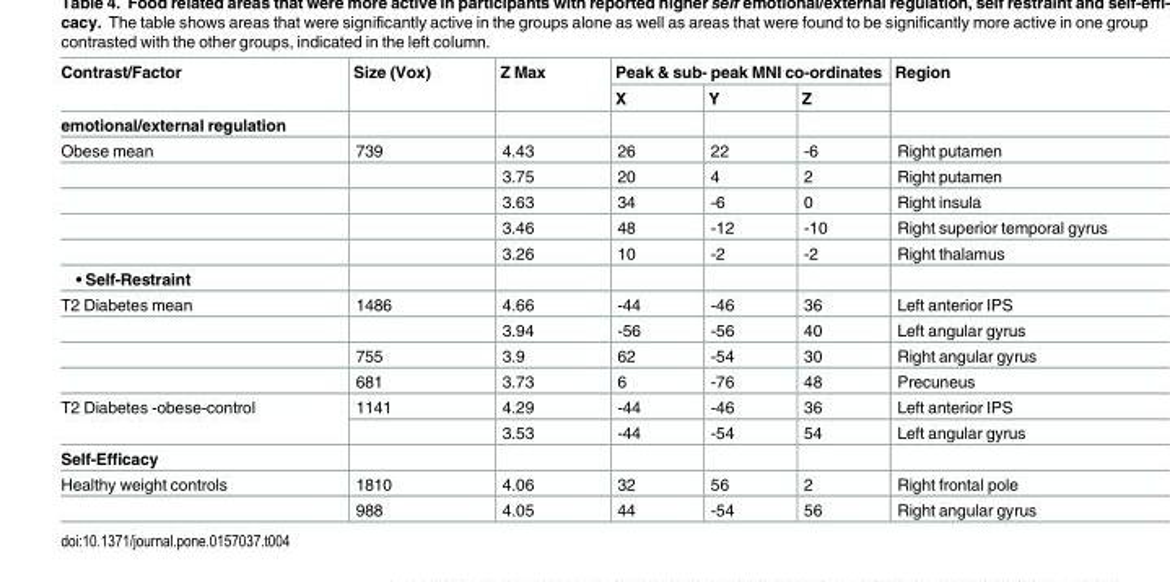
<table><thead><tr><td rowspan="2">Contrast/Factor</td><td rowspan="2">Size (Vox)</td><td rowspan="2">Z Max</td><td colspan="3">Peak &amp; sub- peak MNI co-ordinates</td><td rowspan="2">Region</td></tr><tr><td>X</td><td>Y</td><td>Z</td></tr></thead><tbody><tr><td colspan="7">emotional/external regulation</td></tr><tr><td rowspan="5">Obese mean</td><td>739</td><td>4.43</td><td>26</td><td>22</td><td>-6</td><td>Right putamen</td></tr><tr><td></td><td>3.75</td><td>20</td><td>4</td><td>2</td><td>Right putamen</td></tr><tr><td></td><td>3.63</td><td>34</td><td>-6</td><td>0</td><td>Right insula</td></tr><tr><td></td><td>3.46</td><td>48</td><td>-12</td><td>-10</td><td>Right superior temporal gyrus</td></tr><tr><td></td><td>3.26</td><td>10</td><td>-2</td><td>-2</td><td>Right thalamus</td></tr><tr><td colspan="7">• Self-Restraint</td></tr><tr><td rowspan="4">T2 Diabetes mean</td><td>1486</td><td>4.66</td><td>-44</td><td>-46</td><td>36</td><td>Left anterior IPS</td></tr><tr><td></td><td>3.94</td><td>-56</td><td>-56</td><td>40</td><td>Left angular gyrus</td></tr><tr><td>755</td><td>3.9</td><td>62</td><td>-54</td><td>30</td><td>Right angular gyrus</td></tr><tr><td>681</td><td>3.73</td><td>6</td><td>-76</td><td>48</td><td>Precuneus</td></tr><tr><td rowspan="2">T2 Diabetes -obese-control</td><td>1141</td><td>4.29</td><td>-44</td><td>-46</td><td>36</td><td>Left anterior IPS</td></tr><tr><td></td><td>3.53</td><td>-44</td><td>-54</td><td>54</td><td>Left angular gyrus</td></tr><tr><td colspan="7">Self-Efficacy</td></tr><tr><td rowspan="2">Healthy weight controls</td><td>1810</td><td>4.06</td><td>32</td><td>56</td><td>2</td><td>Right frontal pole</td></tr><tr><td>988</td><td>4.05</td><td>44</td><td>-54</td><td>56</td><td>Right angular gyrus</td></tr></tbody></table>